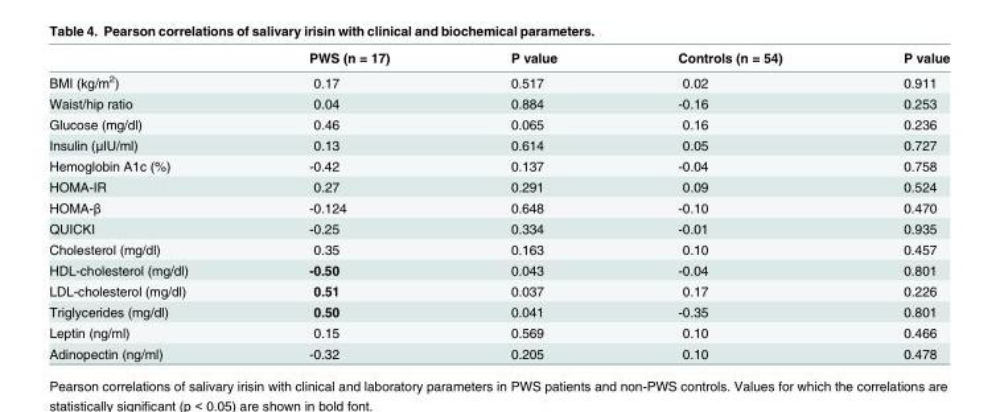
<table><thead><tr><td></td><td>PWS (n = 17)</td><td>P value</td><td>Controls (n = 54)</td><td>P value</td></tr></thead><tbody><tr><td>BMI (kg/m<sup>2</sup>)</td><td>0.17</td><td>0.517</td><td>0.02</td><td>0.911</td></tr><tr><td>Waist/hip ratio</td><td>0.04</td><td>0.884</td><td>-0.16</td><td>0.253</td></tr><tr><td>Glucose (mg/dl)</td><td>0.46</td><td>0.065</td><td>0.16</td><td>0.236</td></tr><tr><td>Insulin (μIU/ml)</td><td>0.13</td><td>0.614</td><td>0.05</td><td>0.727</td></tr><tr><td>Hemoglobin A1c (%)</td><td>-0.42</td><td>0.137</td><td>-0.04</td><td>0.758</td></tr><tr><td>HOMA-IR</td><td>0.27</td><td>0.291</td><td>0.09</td><td>0.524</td></tr><tr><td>HOMA-β</td><td>-0.124</td><td>0.648</td><td>-0.10</td><td>0.470</td></tr><tr><td>QUICKI</td><td>-0.25</td><td>0.334</td><td>-0.01</td><td>0.935</td></tr><tr><td>Cholesterol (mg/dl)</td><td>0.35</td><td>0.163</td><td>0.10</td><td>0.457</td></tr><tr><td>HDL-cholesterol (mg/dl)</td><td>-0.50</td><td>0.043</td><td>-0.04</td><td>0.801</td></tr><tr><td>LDL-cholesterol (mg/dl)</td><td>0.51</td><td>0.037</td><td>0.17</td><td>0.226</td></tr><tr><td>Triglycerides (mg/dl)</td><td>0.50</td><td>0.041</td><td>-0.35</td><td>0.801</td></tr><tr><td>Leptin (ng/ml)</td><td>0.15</td><td>0.569</td><td>0.10</td><td>0.466</td></tr><tr><td>Adinopectin (ng/ml)</td><td>-0.32</td><td>0.205</td><td>0.10</td><td>0.478</td></tr></tbody></table>